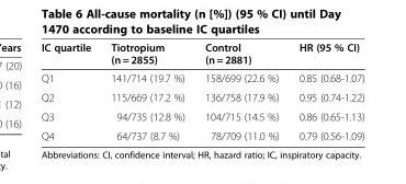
<table><thead><tr><td>IC quartile</td><td>Tiotropium (n = 2855)</td><td>Control (n = 2881)</td><td>HR (95 % CI)</td></tr></thead><tbody><tr><td>Q1</td><td>141/714 (19.7 %)</td><td>158/699 (22.6 %)</td><td>0.85 (0.68-1.07)</td></tr><tr><td>Q2</td><td>115/669 (17.2 %)</td><td>136/758 (17.9 %)</td><td>0.95 (0.74-1.22)</td></tr><tr><td>Q3</td><td>94/735 (12.8 %)</td><td>104/715 (14.5 %)</td><td>0.86 (0.65-1.13)</td></tr><tr><td>Q4</td><td>64/737 (8.7 %)</td><td>78/709 (11.0 %)</td><td>0.79 (0.56-1.09)</td></tr></tbody></table>